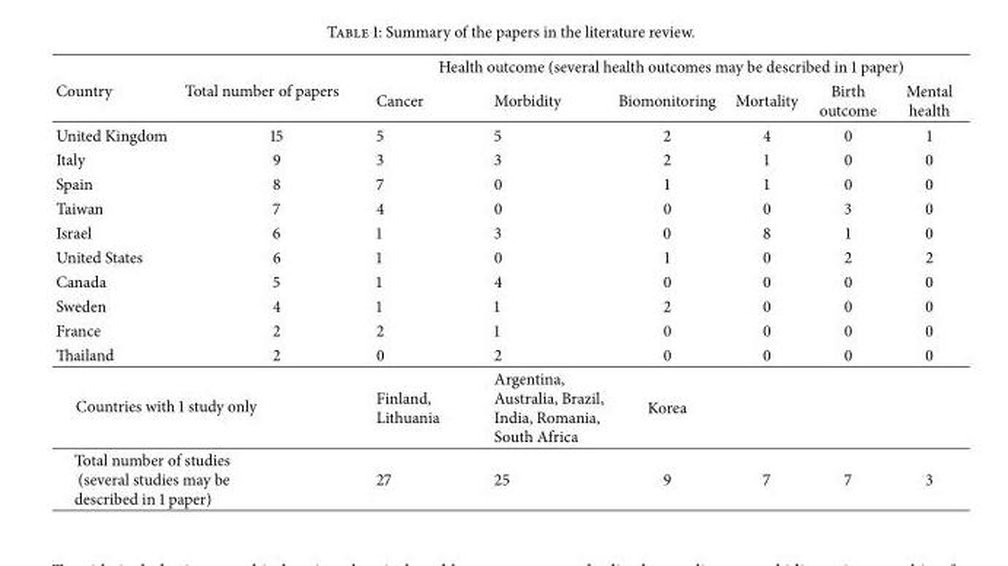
<table><thead><tr><td rowspan="2">Country</td><td rowspan="2">Total number of papers</td><td colspan="6">Health outcome (several health outcomes may be described in 1 paper)</td></tr><tr><td>Cancer</td><td>Morbidity</td><td>Biomonitoring</td><td>Mortality</td><td>Birth outcome</td><td>Mental health</td></tr></thead><tbody><tr><td>United Kingdom</td><td>15</td><td>5</td><td>5</td><td>2</td><td>4</td><td>0</td><td>1</td></tr><tr><td>Italy</td><td>9</td><td>3</td><td>3</td><td>2</td><td>1</td><td>0</td><td>0</td></tr><tr><td>Spain</td><td>8</td><td>7</td><td>0</td><td>1</td><td>1</td><td>0</td><td>0</td></tr><tr><td>Taiwan</td><td>7</td><td>4</td><td>0</td><td>0</td><td>0</td><td>3</td><td>0</td></tr><tr><td>Israel</td><td>6</td><td>1</td><td>3</td><td>0</td><td>8</td><td>1</td><td>0</td></tr><tr><td>United States</td><td>6</td><td>1</td><td>0</td><td>1</td><td>0</td><td>2</td><td>2</td></tr><tr><td>Canada</td><td>5</td><td>1</td><td>4</td><td>0</td><td>0</td><td>0</td><td>0</td></tr><tr><td>Sweden</td><td>4</td><td>1</td><td>1</td><td>2</td><td>0</td><td>0</td><td>0</td></tr><tr><td>France</td><td>2</td><td>2</td><td>1</td><td>0</td><td>0</td><td>0</td><td>0</td></tr><tr><td>Thailand</td><td>2</td><td>0</td><td>2</td><td>0</td><td>0</td><td>0</td><td>0</td></tr><tr><td colspan="2">Countries with 1 study only</td><td>Finland, Lithuania</td><td>Argentina, Australia, Brazil, India, Romania, South Africa</td><td>Korea</td><td></td><td></td><td></td></tr><tr><td colspan="2">Total number of studies (several studies may be described in 1 paper)</td><td>27</td><td>25</td><td>9</td><td>7</td><td>7</td><td>3</td></tr></tbody></table>